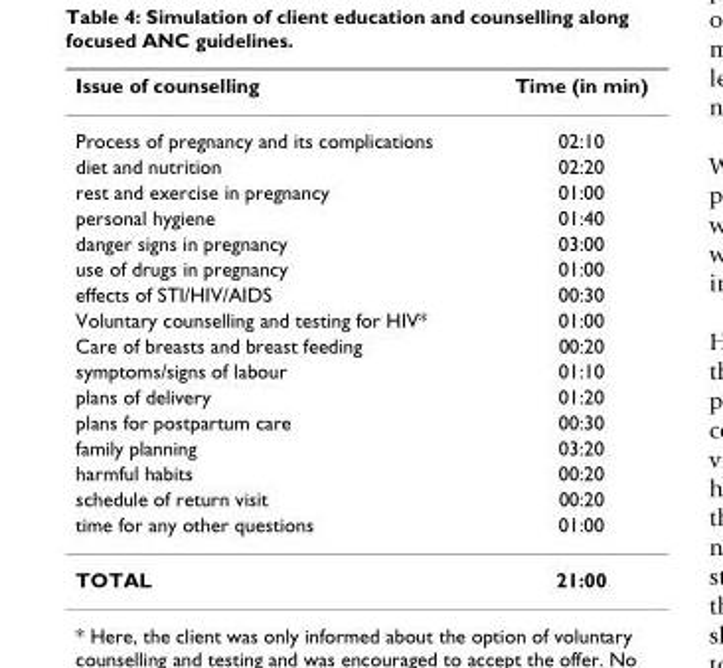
<table><thead><tr><td>Issue of counselling</td><td>Time (in min)</td></tr></thead><tbody><tr><td>Process of pregnancy and its complications</td><td>02:10</td></tr><tr><td>diet and nutrition</td><td>02:20</td></tr><tr><td>rest and exercise in pregnancy</td><td>01:00</td></tr><tr><td>personal hygiene</td><td>01:40</td></tr><tr><td>danger signs in pregnancy</td><td>03:00</td></tr><tr><td>use of drugs in pregnancy</td><td>01:00</td></tr><tr><td>effects of STI/HIV/AIDS</td><td>00:30</td></tr><tr><td>Voluntary counselling and testing for HIV*</td><td>01:00</td></tr><tr><td>Care of breasts and breast feeding</td><td>00:20</td></tr><tr><td>symptoms/signs of labour</td><td>01:10</td></tr><tr><td>plans of delivery</td><td>01:20</td></tr><tr><td>plans for postpartum care</td><td>00:30</td></tr><tr><td>family planning</td><td>03:20</td></tr><tr><td>harmful habits</td><td>00:20</td></tr><tr><td>schedule of return visit</td><td>00:20</td></tr><tr><td>time for any other questions</td><td>01:00</td></tr><tr><td>TOTAL</td><td>21:00</td></tr></tbody></table>